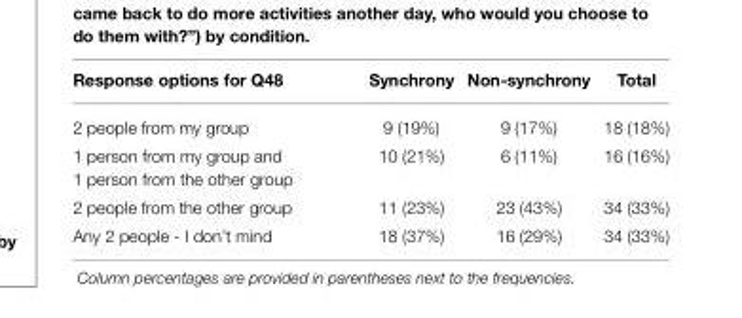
<table><thead><tr><td>Response options for Q48</td><td>Synchrony</td><td>Non-synchrony</td><td>Total</td></tr></thead><tbody><tr><td>2 people from my group</td><td>9 (19%)</td><td>9 (17%)</td><td>18 (18%)</td></tr><tr><td>1 person from my group and 1 person from the other group</td><td>10 (21%)</td><td>6 (11%)</td><td>16 (16%)</td></tr><tr><td>2 people from the other group</td><td>11 (23%)</td><td>23 (43%)</td><td>34 (33%)</td></tr><tr><td>Any 2 people - I don’t mind</td><td>18 (37%)</td><td>16 (29%)</td><td>34 (33%)</td></tr></tbody></table>